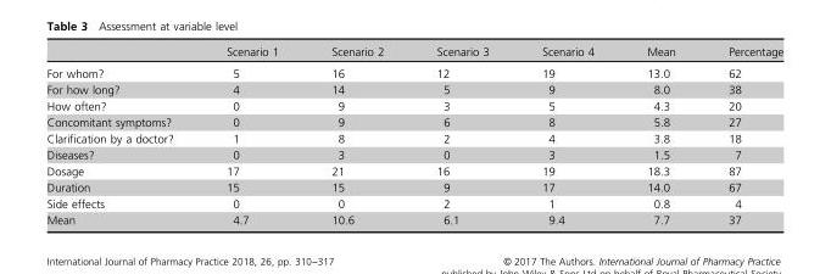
<table><thead><tr><td></td><td>Scenario 1</td><td>Scenario 2</td><td>Scenario 3</td><td>Scenario 4</td><td>Mean</td><td>Percentage</td></tr></thead><tbody><tr><td>For whom?</td><td>5</td><td>16</td><td>12</td><td>19</td><td>13.0</td><td>62</td></tr><tr><td>For how long?</td><td>4</td><td>14</td><td>5</td><td>9</td><td>8.0</td><td>38</td></tr><tr><td>How often?</td><td>0</td><td>9</td><td>3</td><td>5</td><td>4.3</td><td>20</td></tr><tr><td>Concomitant symptoms?</td><td>0</td><td>9</td><td>6</td><td>8</td><td>5.8</td><td>27</td></tr><tr><td>Clarification by a doctor?</td><td>1</td><td>8</td><td>2</td><td>4</td><td>3.8</td><td>18</td></tr><tr><td>Diseases?</td><td>0</td><td>3</td><td>0</td><td>3</td><td>1.5</td><td>7</td></tr><tr><td>Dosage</td><td>17</td><td>21</td><td>16</td><td>19</td><td>18.3</td><td>87</td></tr><tr><td>Duration</td><td>15</td><td>15</td><td>9</td><td>17</td><td>14.0</td><td>67</td></tr><tr><td>Side effects</td><td>0</td><td>0</td><td>2</td><td>1</td><td>0.8</td><td>4</td></tr><tr><td>Mean</td><td>4.7</td><td>10.6</td><td>6.1</td><td>9.4</td><td>7.7</td><td>37</td></tr></tbody></table>